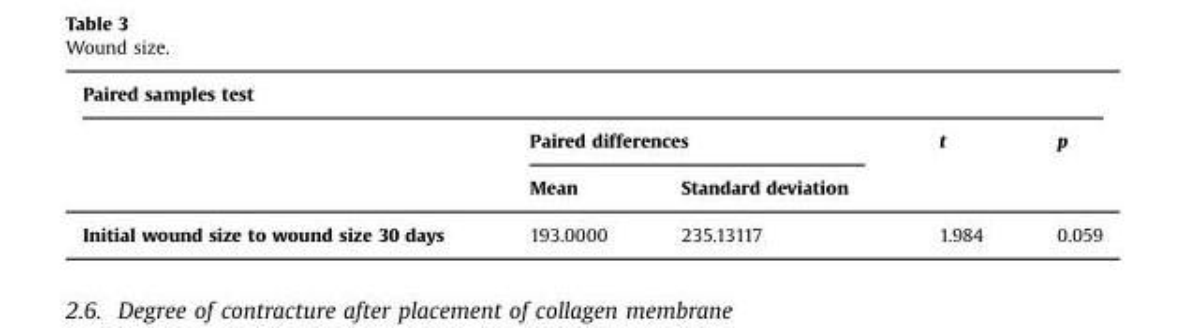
<table><thead><tr><td colspan="5">Paired samples test</td></tr><tr><td rowspan="2"></td><td colspan="2">Paired differences</td><td rowspan="2">t</td><td rowspan="2">p</td></tr><tr><td>Mean</td><td>Standard deviation</td></tr></thead><tbody><tr><td>Initial wound size to wound size 30 days</td><td>193.0000</td><td>235.13117</td><td>1.984</td><td>0.059</td></tr></tbody></table>